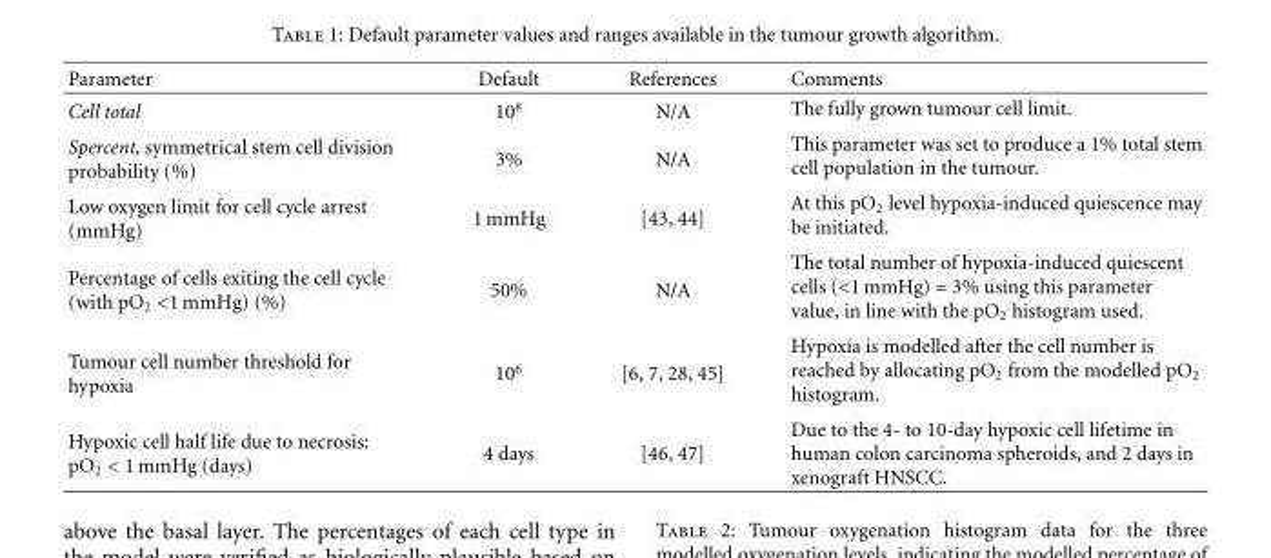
<table><thead><tr><td>Parameter</td><td>Default</td><td>References</td><td>Comments</td></tr></thead><tbody><tr><td>Cell total</td><td>10<sup>8</sup></td><td>N/A</td><td>The fully grown tumour cell limit.</td></tr><tr><td>Spercent, symmetrical stem cell division probability (%)</td><td>3%</td><td>N/A</td><td>This parameter was set to produce a 1% total stem cell population in the tumour.</td></tr><tr><td>Low oxygen limit for cell cycle arrest (mmHg)</td><td>1 mmHg</td><td>[43, 44]</td><td>At this pO<sub>2</sub> level hypoxia-induced quiescence may be initiated.</td></tr><tr><td>Percentage of cells exiting the cell cycle (with pO<sub>2</sub> &lt;1 mmHg) (%)</td><td>50%</td><td>N/A</td><td>The total number of hypoxia-induced quiescent cells (&lt;1 mmHg) = 3% using this parameter value, in line with the pO<sub>2</sub> histogram used.</td></tr><tr><td>Tumour cell number threshold for hypoxia</td><td>10<sup>6</sup></td><td>[6, 7, 28, 45]</td><td>Hypoxia is modelled after the cell number is reached by allocating pO<sub>2</sub> from the modelled pO<sub>2</sub> histogram.</td></tr><tr><td>Hypoxic cell half life due to necrosis: pO<sub>2</sub> &lt; 1 mmHg (days)</td><td>4 days</td><td>[46, 47]</td><td>Due to the 4- to 10-day hypoxic cell lifetime in human colon carcinoma spheroids, and 2 days in xenograft HNSCC.</td></tr></tbody></table>